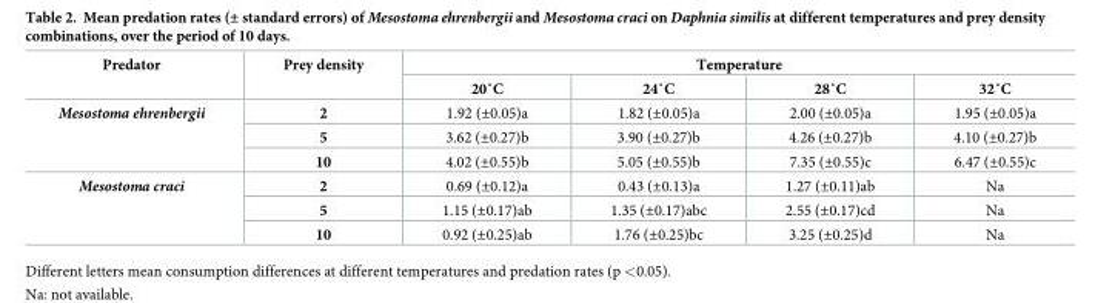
<table><thead><tr><td rowspan="2">Predator</td><td rowspan="2">Prey density</td><td colspan="4">Temperature</td></tr><tr><td>20˚C</td><td>24˚C</td><td>28˚C</td><td>32˚C</td></tr></thead><tbody><tr><td rowspan="3">Mesostoma ehrenbergii</td><td>2</td><td>1.92 (±0.05)a</td><td>1.82 (±0.05)a</td><td>2.00 (±0.05)a</td><td>1.95 (±0.05)a</td></tr><tr><td>5</td><td>3.62 (±0.27)b</td><td>3.90 (±0.27)b</td><td>4.26 (±0.27)b</td><td>4.10 (±0.27)b</td></tr><tr><td>10</td><td>4.02 (±0.55)b</td><td>5.05 (±0.55)b</td><td>7.35 (±0.55)c</td><td>6.47 (±0.55)c</td></tr><tr><td rowspan="3">Mesostoma craci</td><td>2</td><td>0.69 (±0.12)a</td><td>0.43 (±0.13)a</td><td>1.27 (±0.11)ab</td><td>Na</td></tr><tr><td>5</td><td>1.15 (±0.17)ab</td><td>1.35 (±0.17)abc</td><td>2.55 (±0.17)cd</td><td>Na</td></tr><tr><td>10</td><td>0.92 (±0.25)ab</td><td>1.76 (±0.25)bc</td><td>3.25 (±0.25)d</td><td>Na</td></tr></tbody></table>